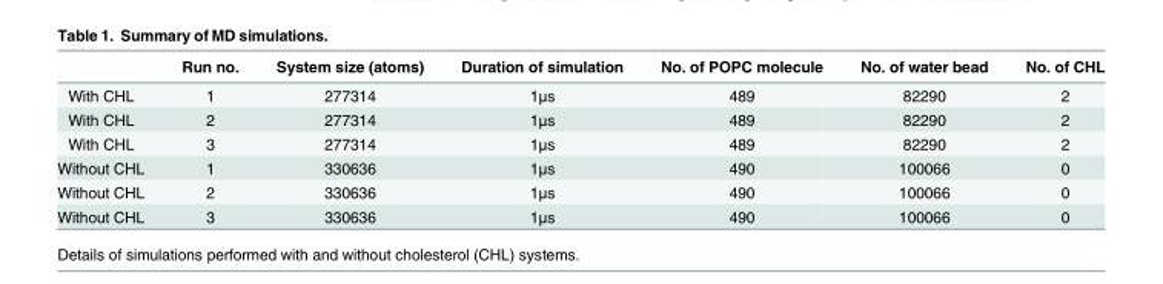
<table><thead><tr><td></td><td>Run no.</td><td>System size (atoms)</td><td>Duration of simulation</td><td>No. of POPC molecule</td><td>No. of water bead</td><td>No. of CHL</td></tr></thead><tbody><tr><td>With CHL</td><td>1</td><td>277314</td><td>1μs</td><td>489</td><td>82290</td><td>2</td></tr><tr><td>With CHL</td><td>2</td><td>277314</td><td>1μs</td><td>489</td><td>82290</td><td>2</td></tr><tr><td>With CHL</td><td>3</td><td>277314</td><td>1μs</td><td>489</td><td>82290</td><td>2</td></tr><tr><td>Without CHL</td><td>1</td><td>330636</td><td>1μs</td><td>490</td><td>100066</td><td>0</td></tr><tr><td>Without CHL</td><td>2</td><td>330636</td><td>1μs</td><td>490</td><td>100066</td><td>0</td></tr><tr><td>Without CHL</td><td>3</td><td>330636</td><td>1μs</td><td>490</td><td>100066</td><td>0</td></tr></tbody></table>